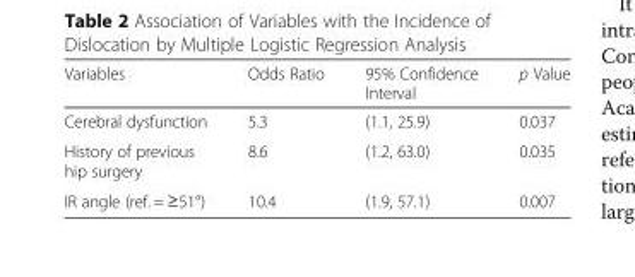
<table><thead><tr><td>Variables</td><td>Odds Ratio</td><td>95% Confidence Interval</td><td>p Value</td></tr></thead><tbody><tr><td>Cerebral dysfunction</td><td>5.3</td><td>(1.1, 25.9)</td><td>0.037</td></tr><tr><td>History of previous hip surgery</td><td>8.6</td><td>(1.2, 63.0)</td><td>0.035</td></tr><tr><td>IR angle (ref. = ≥51°)</td><td>10.4</td><td>(1.9, 57.1)</td><td>0.007</td></tr></tbody></table>